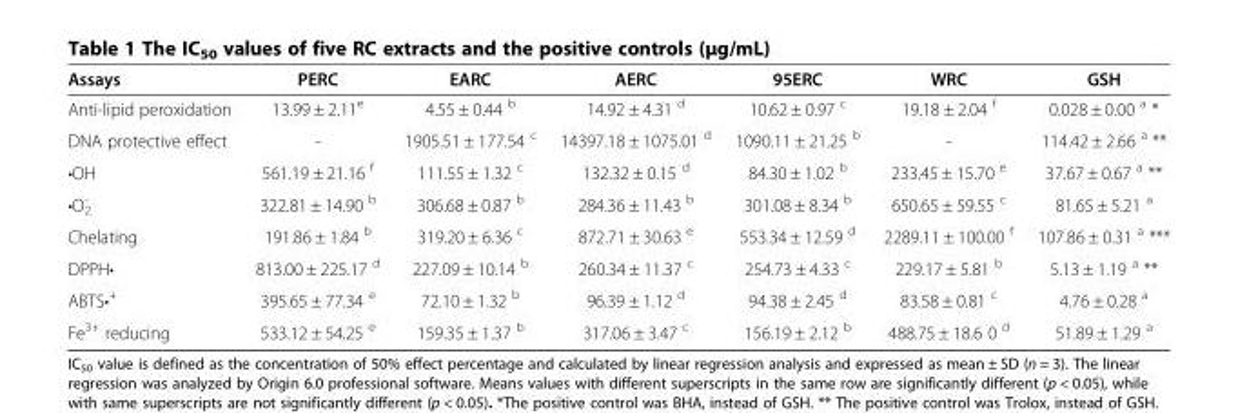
<table><thead><tr><td>Assays</td><td>PERC</td><td>EARC</td><td>AERC</td><td>95ERC</td><td>WRC</td><td>GSH</td></tr></thead><tbody><tr><td>Anti-lipid peroxidation</td><td>13.99 ± 2.11<sup>e</sup></td><td>4.55 ± 0.44 <sup>b</sup></td><td>14.92 ± 4.31 <sup>d</sup></td><td>10.62 ± 0.97 <sup>c</sup></td><td>19.18 ± 2.04 <sup>f</sup></td><td>0.028 ± 0.00 <sup>a</sup> *</td></tr><tr><td>DNA protective effect</td><td>-</td><td>1905.51 ± 177.54 <sup>c</sup></td><td>14397.18 ± 1075.01 <sup>d</sup></td><td>1090.11 ± 21.25 <sup>b</sup></td><td>-</td><td>114.42 ± 2.66 <sup>a</sup> **</td></tr><tr><td>•OH</td><td>561.19 ± 21.16 <sup>f</sup></td><td>111.55 ± 1.32 <sup>c</sup></td><td>132.32 ± 0.15 <sup>d</sup></td><td>84.30 ± 1.02 <sup>b</sup></td><td>233.45 ± 15.70 <sup>e</sup></td><td>37.67 ± 0.67 <sup>a</sup> **</td></tr><tr><td>•O2 -</td><td>322.81 ± 14.90 <sup>b</sup></td><td>306.68 ± 0.87 <sup>b</sup></td><td>284.36 ± 11.43 <sup>b</sup></td><td>301.08 ± 8.34 <sup>b</sup></td><td>650.65 ± 59.55 <sup>c</sup></td><td>81.65 ± 5.21 <sup>a</sup></td></tr><tr><td>Chelating</td><td>191.86 ± 1.84 <sup>b</sup></td><td>319.20 ± 6.36 <sup>c</sup></td><td>872.71 ± 30.63 <sup>e</sup></td><td>553.34 ± 12.59 <sup>d</sup></td><td>2289.11 ± 100.00 <sup>f</sup></td><td>107.86 ± 0.31 <sup>a</sup> ***</td></tr><tr><td>DPPH•</td><td>813.00 ± 225.17 <sup>d</sup></td><td>227.09 ± 10.14 <sup>b</sup></td><td>260.34 ± 11.37 <sup>c</sup></td><td>254.73 ± 4.33 <sup>c</sup></td><td>229.17 ± 5.81 <sup>b</sup></td><td>5.13 ± 1.19 <sup>a</sup> **</td></tr><tr><td>ABTS•+</td><td>395.65 ± 77.34 <sup>e</sup></td><td>72.10 ± 1.32 <sup>b</sup></td><td>96.39 ± 1.12 <sup>d</sup></td><td>94.38 ± 2.45 <sup>d</sup></td><td>83.58 ± 0.81 <sup>c</sup></td><td>4.76 ± 0.28 <sup>a</sup></td></tr><tr><td>Fe<sup>3+</sup> reducing</td><td>533.12 ± 54.25 <sup>e</sup></td><td>159.35 ± 1.37 <sup>b</sup></td><td>317.06 ± 3.47 <sup>c</sup></td><td>156.19 ± 2.12 <sup>b</sup></td><td>488.75 ± 18.6 0 <sup>d</sup></td><td>51.89 ± 1.29 <sup>a</sup></td></tr></tbody></table>